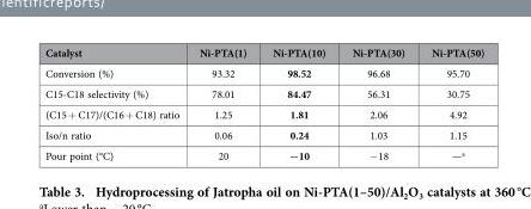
<table><thead><tr><td>Catalyst</td><td>Ni-PTA(1)</td><td>Ni-PTA(10)</td><td>Ni-PTA(30)</td><td>Ni-PTA(50)</td></tr></thead><tbody><tr><td>Conversion (%)</td><td>93.32</td><td>98.52</td><td>96.68</td><td>95.70</td></tr><tr><td>C15-C18 selectivity (%)</td><td>78.01</td><td>84.47</td><td>56.31</td><td>30.75</td></tr><tr><td>(C15 + C17)/(C16 + C18) ratio</td><td>1.25</td><td>1.81</td><td>2.06</td><td>4.92</td></tr><tr><td>Iso/n ratio</td><td>0.06</td><td>0.24</td><td>1.03</td><td>1.15</td></tr><tr><td>Pour point (°C)</td><td>20</td><td>−10</td><td>− 18</td><td>—a</td></tr></tbody></table>